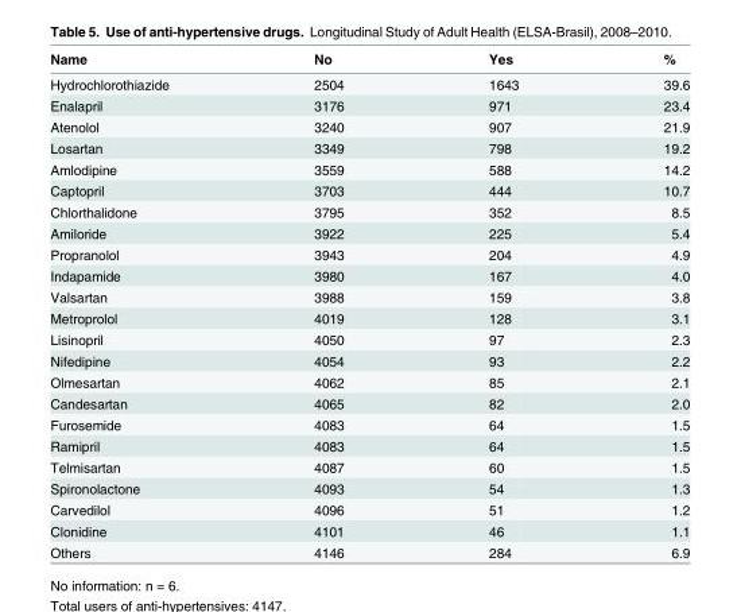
<table><thead><tr><td>Name</td><td>No</td><td>Yes</td><td>%</td></tr></thead><tbody><tr><td>Hydrochlorothiazide</td><td>2504</td><td>1643</td><td>39.6</td></tr><tr><td>Enalapril</td><td>3176</td><td>971</td><td>23.4</td></tr><tr><td>Atenolol</td><td>3240</td><td>907</td><td>21.9</td></tr><tr><td>Losartan</td><td>3349</td><td>798</td><td>19.2</td></tr><tr><td>Amlodipine</td><td>3559</td><td>588</td><td>14.2</td></tr><tr><td>Captopril</td><td>3703</td><td>444</td><td>10.7</td></tr><tr><td>Chlorthalidone</td><td>3795</td><td>352</td><td>8.5</td></tr><tr><td>Amiloride</td><td>3922</td><td>225</td><td>5.4</td></tr><tr><td>Propranolol</td><td>3943</td><td>204</td><td>4.9</td></tr><tr><td>Indapamide</td><td>3980</td><td>167</td><td>4.0</td></tr><tr><td>Valsartan</td><td>3988</td><td>159</td><td>3.8</td></tr><tr><td>Metroprolol</td><td>4019</td><td>128</td><td>3.1</td></tr><tr><td>Lisinopril</td><td>4050</td><td>97</td><td>2.3</td></tr><tr><td>Nifedipine</td><td>4054</td><td>93</td><td>2.2</td></tr><tr><td>Olmesartan</td><td>4062</td><td>85</td><td>2.1</td></tr><tr><td>Candesartan</td><td>4065</td><td>82</td><td>2.0</td></tr><tr><td>Furosemide</td><td>4083</td><td>64</td><td>1.5</td></tr><tr><td>Ramipril</td><td>4083</td><td>64</td><td>1.5</td></tr><tr><td>Telmisartan</td><td>4087</td><td>60</td><td>1.5</td></tr><tr><td>Spironolactone</td><td>4093</td><td>54</td><td>1.3</td></tr><tr><td>Carvedilol</td><td>4096</td><td>51</td><td>1.2</td></tr><tr><td>Clonidine</td><td>4101</td><td>46</td><td>1.1</td></tr><tr><td>Others</td><td>4146</td><td>284</td><td>6.9</td></tr></tbody></table>